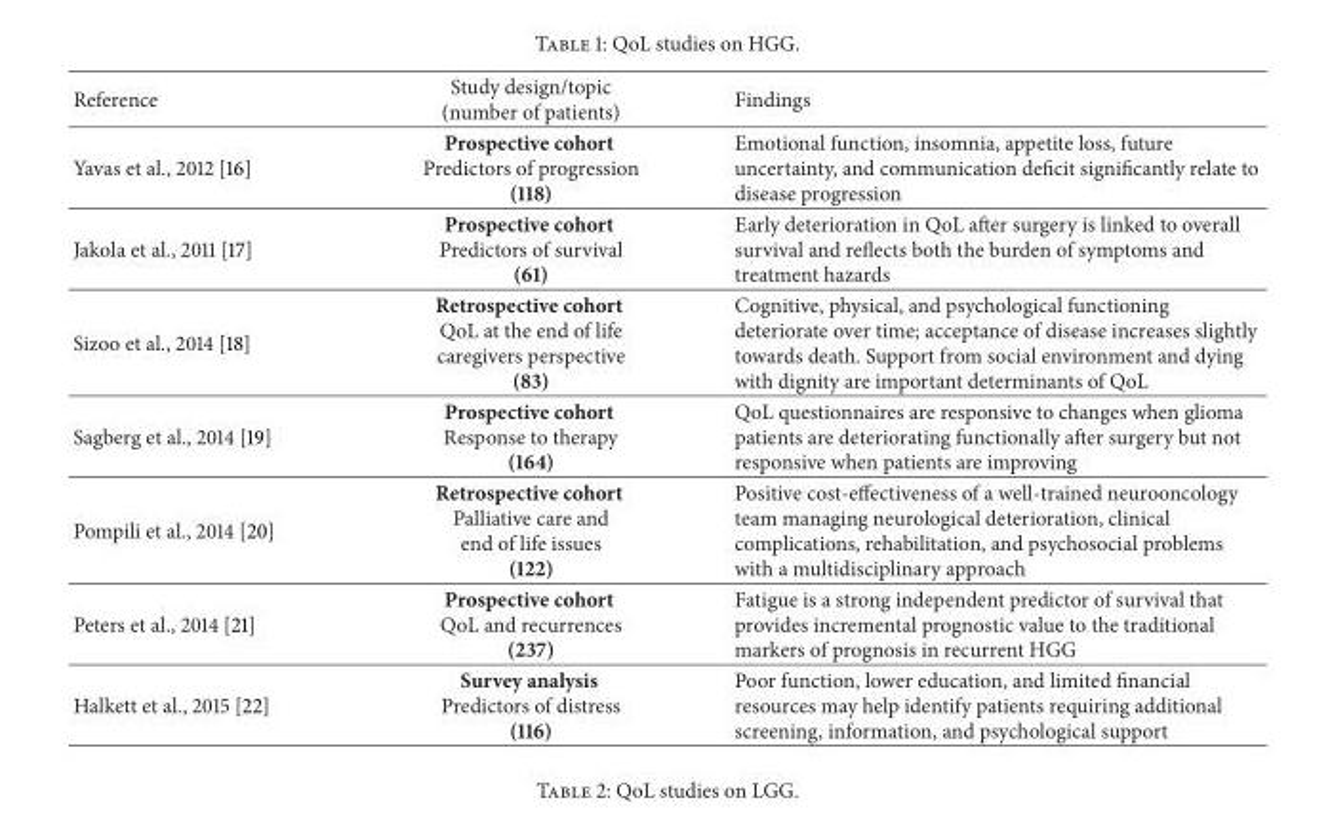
<table><thead><tr><td>Reference</td><td>Study design/topic (number of patients)</td><td>Findings</td></tr></thead><tbody><tr><td>Yavas et al., 2012 [16]</td><td>Prospective cohort Predictors of progression (118)</td><td>Emotional function, insomnia, appetite loss, future uncertainty, and communication deficit significantly relate to disease progression</td></tr><tr><td>Jakola et al., 2011 [17]</td><td>Prospective cohort Predictors of survival (61)</td><td>Early deterioration in QoL after surgery is linked to overall survival and reflects both the burden of symptoms and treatment hazards</td></tr><tr><td>Sizoo et al., 2014 [18]</td><td>Retrospective cohort QoL at the end of life caregivers perspective (83)</td><td>Cognitive, physical, and psychological functioning deteriorate over time; acceptance of disease increases slightly towards death. Support from social environment and dying with dignity are important determinants of QoL</td></tr><tr><td>Sagberg et al., 2014 [19]</td><td>Prospective cohort Response to therapy (164)</td><td>QoL questionnaires are responsive to changes when glioma patients are deteriorating functionally after surgery but not responsive when patients are improving</td></tr><tr><td>Pompili et al., 2014 [20]</td><td>Retrospective cohort Palliative care and end of life issues (122)</td><td>Positive cost-effectiveness of a well-trained neurooncology team managing neurological deterioration, clinical complications, rehabilitation, and psychosocial problems with a multidisciplinary approach</td></tr><tr><td>Peters et al., 2014 [21]</td><td>Prospective cohort QoL and recurrences (237)</td><td>Fatigue is a strong independent predictor of survival that provides incremental prognostic value to the traditional markers of prognosis in recurrent HGG</td></tr><tr><td>Halkett et al., 2015 [22]</td><td>Survey analysis Predictors of distress (116)</td><td>Poor function, lower education, and limited financial resources may help identify patients requiring additional screening, information, and psychological support</td></tr></tbody></table>